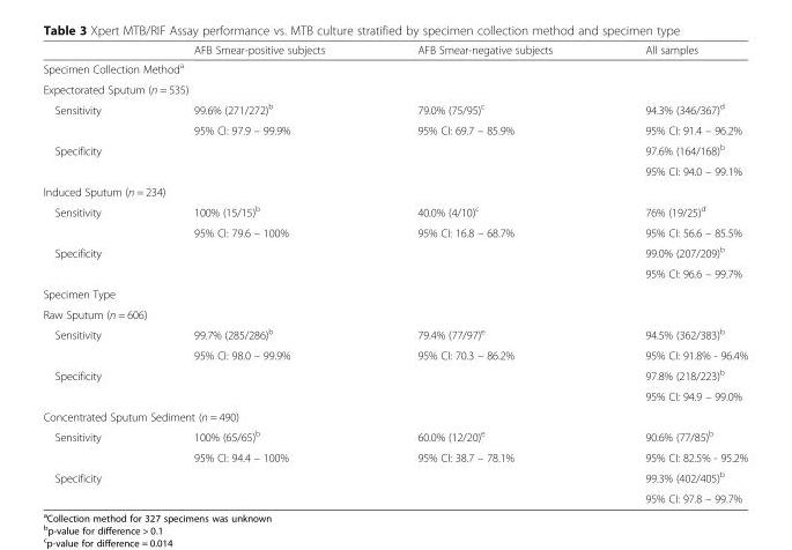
<table><thead><tr><td></td><td>AFB Smear-positive subjects</td><td>AFB Smear-negative subjects</td><td>All samples</td></tr></thead><tbody><tr><td colspan="4">Specimen Collection Method<sup>a</sup></td></tr><tr><td colspan="4">Expectorated Sputum (n = 535)</td></tr><tr><td rowspan="2">Sensitivity</td><td>99.6% (271/272)<sup>b</sup></td><td>79.0% (75/95)<sup>c</sup></td><td>94.3% (346/367)<sup>d</sup></td></tr><tr><td>95% CI: 97.9 – 99.9%</td><td>95% CI: 69.7 – 85.9%</td><td>95% CI: 91.4 – 96.2%</td></tr><tr><td rowspan="2">Specificity</td><td rowspan="2"></td><td rowspan="2"></td><td>97.6% (164/168)<sup>b</sup></td></tr><tr><td>95% CI: 94.0 – 99.1%</td></tr><tr><td colspan="4">Induced Sputum (n = 234)</td></tr><tr><td rowspan="2">Sensitivity</td><td>100% (15/15)<sup>b</sup></td><td>40.0% (4/10)<sup>c</sup></td><td>76% (19/25)<sup>d</sup></td></tr><tr><td>95% CI: 79.6 – 100%</td><td>95% CI: 16.8 – 68.7%</td><td>95% CI: 56.6 – 85.5%</td></tr><tr><td rowspan="2">Specificity</td><td rowspan="2"></td><td rowspan="2"></td><td>99.0% (207/209)<sup>b</sup></td></tr><tr><td>95% CI: 96.6 – 99.7%</td></tr><tr><td colspan="4">Specimen Type</td></tr><tr><td colspan="4">Raw Sputum (n = 606)</td></tr><tr><td rowspan="2">Sensitivity</td><td>99.7% (285/286)<sup>b</sup></td><td>79.4% (77/97)<sup>e</sup></td><td>94.5% (362/383)<sup>b</sup></td></tr><tr><td>95% CI: 98.0 – 99.9%</td><td>95% CI: 70.3 – 86.2%</td><td>95% CI: 91.8% - 96.4%</td></tr><tr><td rowspan="2">Specificity</td><td rowspan="2"></td><td rowspan="2"></td><td>97.8% (218/223)<sup>b</sup></td></tr><tr><td>95% CI: 94.9 – 99.0%</td></tr><tr><td colspan="4">Concentrated Sputum Sediment (n = 490)</td></tr><tr><td rowspan="2">Sensitivity</td><td>100% (65/65)<sup>b</sup></td><td>60.0% (12/20)<sup>e</sup></td><td>90.6% (77/85)<sup>b</sup></td></tr><tr><td>95% CI: 94.4 – 100%</td><td>95% CI: 38.7 – 78.1%</td><td>95% CI: 82.5% - 95.2%</td></tr><tr><td rowspan="2">Specificity</td><td rowspan="2"></td><td rowspan="2"></td><td>99.3% (402/405)<sup>b</sup></td></tr><tr><td>95% CI: 97.8 – 99.7%</td></tr></tbody></table>